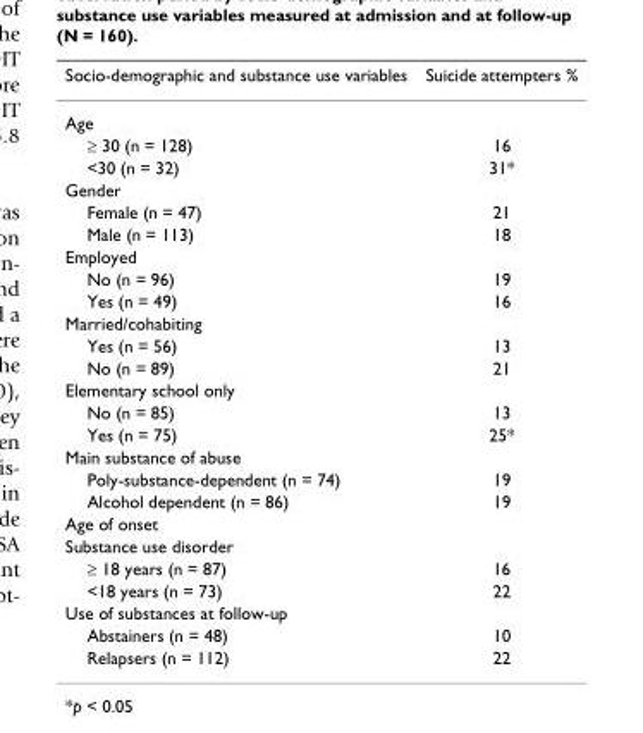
<table><thead><tr><td>Socio-demographic and substance use variables</td><td>Suicide attempters %</td></tr></thead><tbody><tr><td colspan="2">Age</td></tr><tr><td>≥ 30 (n = 128)</td><td>16</td></tr><tr><td>&lt;30 (n = 32)</td><td>31*</td></tr><tr><td colspan="2">Gender</td></tr><tr><td>Female (n = 47)</td><td>21</td></tr><tr><td>Male (n = 113)</td><td>18</td></tr><tr><td colspan="2">Employed</td></tr><tr><td>No (n = 96)</td><td>19</td></tr><tr><td>Yes (n = 49)</td><td>16</td></tr><tr><td colspan="2">Married/cohabiting</td></tr><tr><td>Yes (n = 56)</td><td>13</td></tr><tr><td>No (n = 89)</td><td>21</td></tr><tr><td colspan="2">Elementary school only</td></tr><tr><td>No (n = 85)</td><td>13</td></tr><tr><td>Yes (n = 75)</td><td>25*</td></tr><tr><td colspan="2">Main substance of abuse</td></tr><tr><td>Poly-substance-dependent (n = 74)</td><td>19</td></tr><tr><td>Alcohol dependent (n = 86)</td><td>19</td></tr><tr><td colspan="2">Age of onset</td></tr><tr><td colspan="2">Substance use disorder</td></tr><tr><td>≥ 18 years (n = 87)</td><td>16</td></tr><tr><td>&lt;18 years (n = 73)</td><td>22</td></tr><tr><td colspan="2">Use of substances at follow-up</td></tr><tr><td>Abstainers (n = 48)</td><td>10</td></tr><tr><td>Relapsers (n = 112)</td><td>22</td></tr></tbody></table>